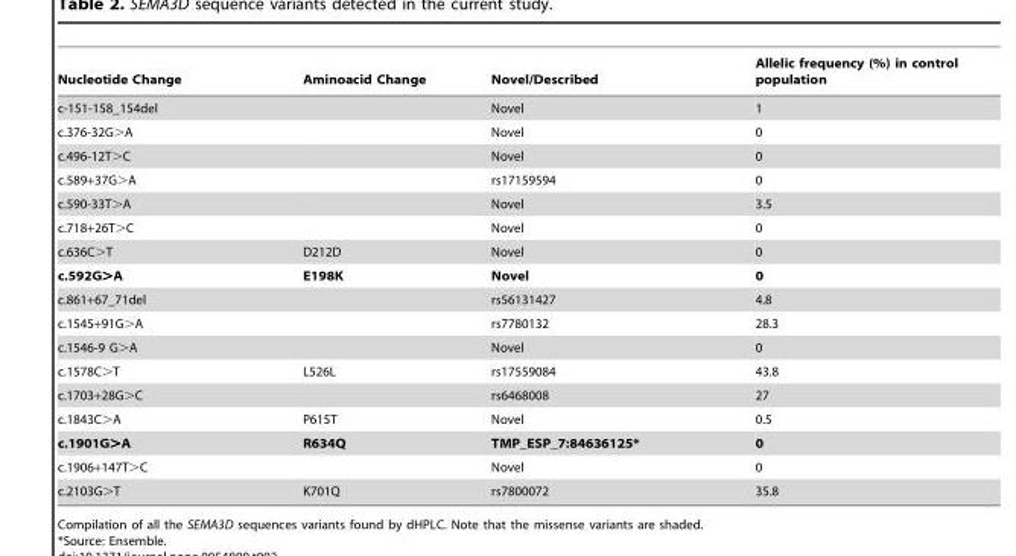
<table><thead><tr><td>Nucleotide Change</td><td>Aminoacid Change</td><td>Novel/Described</td><td>Allelic frequency (%) in control population</td></tr></thead><tbody><tr><td>c-151-158_154del</td><td></td><td>Novel</td><td>1</td></tr><tr><td>c.376-32G&gt;A</td><td></td><td>Novel</td><td>0</td></tr><tr><td>c.496-12T&gt;C</td><td></td><td>Novel</td><td>0</td></tr><tr><td>c.589+37G&gt;A</td><td></td><td>rs17159594</td><td>0</td></tr><tr><td>c.590-33T&gt;A</td><td></td><td>Novel</td><td>3.5</td></tr><tr><td>c.718+26T&gt;C</td><td></td><td>Novel</td><td>0</td></tr><tr><td>c.636C&gt;T</td><td>D212D</td><td>Novel</td><td>0</td></tr><tr><td>c.592G&gt;A</td><td>E198K</td><td>Novel</td><td>0</td></tr><tr><td>c.861+67_71del</td><td></td><td>rs56131427</td><td>4.8</td></tr><tr><td>c.1545+91G&gt;A</td><td></td><td>rs7780132</td><td>28.3</td></tr><tr><td>c.1546-9 G&gt;A</td><td></td><td>Novel</td><td>0</td></tr><tr><td>c.1578C&gt;T</td><td>L526L</td><td>rs17559084</td><td>43.8</td></tr><tr><td>c.1703+28G&gt;C</td><td></td><td>rs6468008</td><td>27</td></tr><tr><td>c.1843C&gt;A</td><td>P615T</td><td>Novel</td><td>0.5</td></tr><tr><td>c.1901G&gt;A</td><td>R634Q</td><td>TMP_ESP_7:84636125*</td><td>0</td></tr><tr><td>c.1906+147T&gt;C</td><td></td><td>Novel</td><td>0</td></tr><tr><td>c.2103G&gt;T</td><td>K701Q</td><td>rs7800072</td><td>35.8</td></tr></tbody></table>